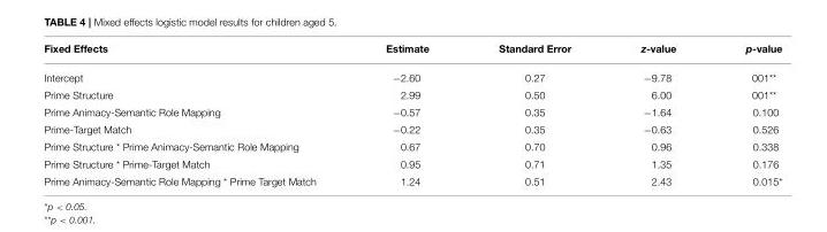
<table><thead><tr><td>Fixed Effects</td><td>Estimate</td><td>Standard Error</td><td>z-value</td><td>p-value</td></tr></thead><tbody><tr><td>Intercept</td><td>−2.60</td><td>0.27</td><td>−9.78</td><td>001**</td></tr><tr><td>Prime Structure</td><td>2.99</td><td>0.50</td><td>6.00</td><td>001**</td></tr><tr><td>Prime Animacy-Semantic Role Mapping</td><td>−0.57</td><td>0.35</td><td>−1.64</td><td>0.100</td></tr><tr><td>Prime-Target Match</td><td>−0.22</td><td>0.35</td><td>−0.63</td><td>0.526</td></tr><tr><td>Prime Structure * Prime Animacy-Semantic Role Mapping</td><td>0.67</td><td>0.70</td><td>0.96</td><td>0.338</td></tr><tr><td>Prime Structure * Prime-Target Match</td><td>0.95</td><td>0.71</td><td>1.35</td><td>0.176</td></tr><tr><td>Prime Animacy-Semantic Role Mapping * Prime Target Match</td><td>1.24</td><td>0.51</td><td>2.43</td><td>0.015*</td></tr></tbody></table>